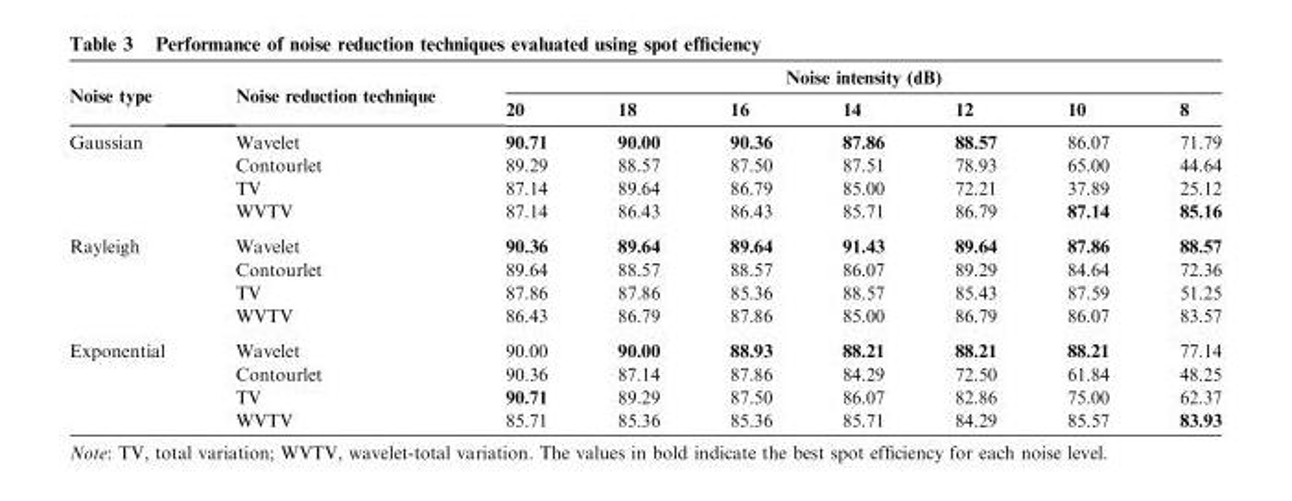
<table><thead><tr><td rowspan="2">Noise type</td><td rowspan="2">Noise reduction technique</td><td colspan="7">Noise intensity (dB)</td></tr><tr><td>20</td><td>18</td><td>16</td><td>14</td><td>12</td><td>10</td><td>8</td></tr></thead><tbody><tr><td rowspan="4">Gaussian</td><td>Wavelet</td><td>90.71</td><td>90.00</td><td>90.36</td><td>87.86</td><td>88.57</td><td>86.07</td><td>71.79</td></tr><tr><td>Contourlet</td><td>89.29</td><td>88.57</td><td>87.50</td><td>87.51</td><td>78.93</td><td>65.00</td><td>44.64</td></tr><tr><td>TV</td><td>87.14</td><td>89.64</td><td>86.79</td><td>85.00</td><td>72.21</td><td>37.89</td><td>25.12</td></tr><tr><td>WVTV</td><td>87.14</td><td>86.43</td><td>86.43</td><td>85.71</td><td>86.79</td><td>87.14</td><td>85.16</td></tr><tr><td rowspan="4">Rayleigh</td><td>Wavelet</td><td>90.36</td><td>89.64</td><td>89.64</td><td>91.43</td><td>89.64</td><td>87.86</td><td>88.57</td></tr><tr><td>Contourlet</td><td>89.64</td><td>88.57</td><td>88.57</td><td>86.07</td><td>89.29</td><td>84.64</td><td>72.36</td></tr><tr><td>TV</td><td>87.86</td><td>87.86</td><td>85.36</td><td>88.57</td><td>85.43</td><td>87.59</td><td>51.25</td></tr><tr><td>WVTV</td><td>86.43</td><td>86.79</td><td>87.86</td><td>85.00</td><td>86.79</td><td>86.07</td><td>83.57</td></tr><tr><td rowspan="4">Exponential</td><td>Wavelet</td><td>90.00</td><td>90.00</td><td>88.93</td><td>88.21</td><td>88.21</td><td>88.21</td><td>77.14</td></tr><tr><td>Contourlet</td><td>90.36</td><td>87.14</td><td>87.86</td><td>84.29</td><td>72.50</td><td>61.84</td><td>48.25</td></tr><tr><td>TV</td><td>90.71</td><td>89.29</td><td>87.50</td><td>86.07</td><td>82.86</td><td>75.00</td><td>62.37</td></tr><tr><td>WVTV</td><td>85.71</td><td>85.36</td><td>85.36</td><td>85.71</td><td>84.29</td><td>85.57</td><td>83.93</td></tr></tbody></table>